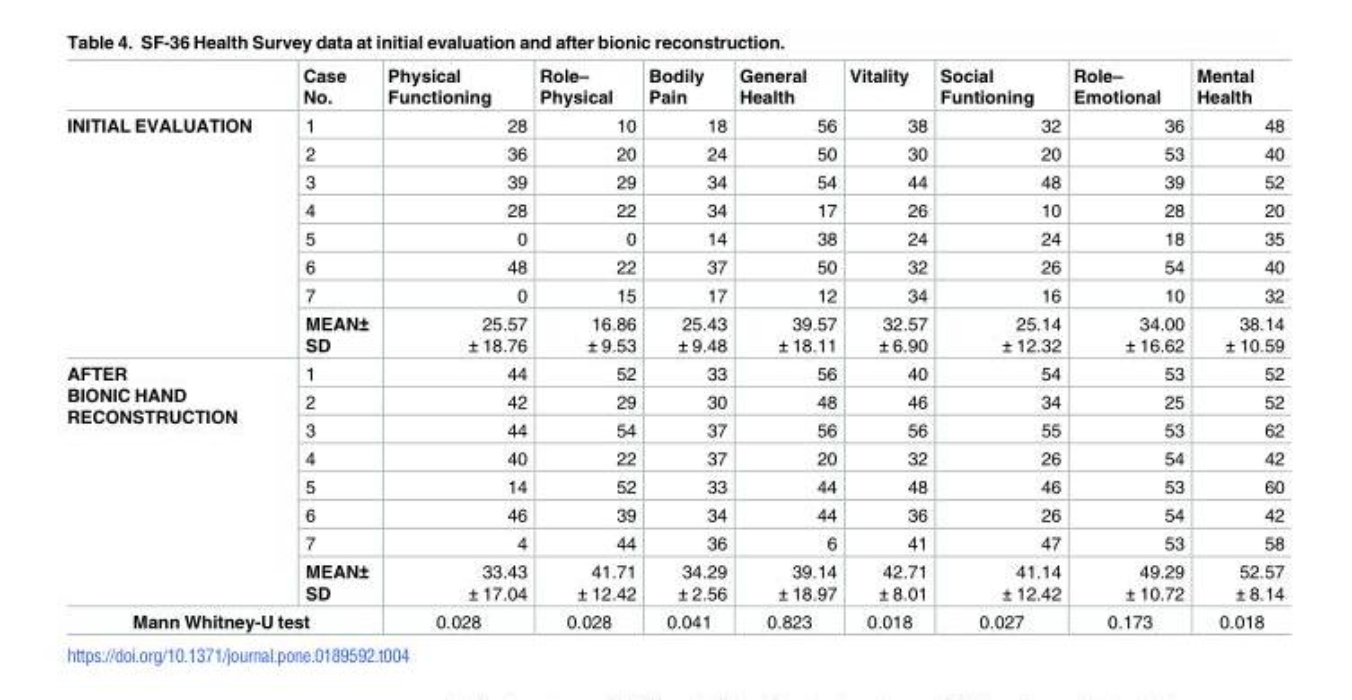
<table><thead><tr><td></td><td>Case No.</td><td>Physical Functioning</td><td>Role– Physical</td><td>Bodily Pain</td><td>General Health</td><td>Vitality</td><td>Social Funtioning</td><td>Role– Emotional</td><td>Mental Health</td></tr></thead><tbody><tr><td rowspan="8">INITIAL EVALUATION</td><td>1</td><td>28</td><td>10</td><td>18</td><td>56</td><td>38</td><td>32</td><td>36</td><td>48</td></tr><tr><td>2</td><td>36</td><td>20</td><td>24</td><td>50</td><td>30</td><td>20</td><td>53</td><td>40</td></tr><tr><td>3</td><td>39</td><td>29</td><td>34</td><td>54</td><td>44</td><td>48</td><td>39</td><td>52</td></tr><tr><td>4</td><td>28</td><td>22</td><td>34</td><td>17</td><td>26</td><td>10</td><td>28</td><td>20</td></tr><tr><td>5</td><td>0</td><td>0</td><td>14</td><td>38</td><td>24</td><td>24</td><td>18</td><td>35</td></tr><tr><td>6</td><td>48</td><td>22</td><td>37</td><td>50</td><td>32</td><td>26</td><td>54</td><td>40</td></tr><tr><td>7</td><td>0</td><td>15</td><td>17</td><td>12</td><td>34</td><td>16</td><td>10</td><td>32</td></tr><tr><td>MEAN± SD</td><td>25.57 ± 18.76</td><td>16.86 ± 9.53</td><td>25.43 ± 9.48</td><td>39.57 ± 18.11</td><td>32.57 ± 6.90</td><td>25.14 ± 12.32</td><td>34.00 ± 16.62</td><td>38.14 ± 10.59</td></tr><tr><td rowspan="8">AFTER BIONIC HAND RECONSTRUCTION</td><td>1</td><td>44</td><td>52</td><td>33</td><td>56</td><td>40</td><td>54</td><td>53</td><td>52</td></tr><tr><td>2</td><td>42</td><td>29</td><td>30</td><td>48</td><td>46</td><td>34</td><td>25</td><td>52</td></tr><tr><td>3</td><td>44</td><td>54</td><td>37</td><td>56</td><td>56</td><td>55</td><td>53</td><td>62</td></tr><tr><td>4</td><td>40</td><td>22</td><td>37</td><td>20</td><td>32</td><td>26</td><td>54</td><td>42</td></tr><tr><td>5</td><td>14</td><td>52</td><td>33</td><td>44</td><td>48</td><td>46</td><td>53</td><td>60</td></tr><tr><td>6</td><td>46</td><td>39</td><td>34</td><td>44</td><td>36</td><td>26</td><td>54</td><td>42</td></tr><tr><td>7</td><td>4</td><td>44</td><td>36</td><td>6</td><td>41</td><td>47</td><td>53</td><td>58</td></tr><tr><td>MEAN± SD</td><td>33.43 ± 17.04</td><td>41.71 ± 12.42</td><td>34.29 ± 2.56</td><td>39.14 ± 18.97</td><td>42.71 ± 8.01</td><td>41.14 ± 12.42</td><td>49.29 ± 10.72</td><td>52.57 ± 8.14</td></tr><tr><td colspan="2">Mann Whitney-U test</td><td>0.028</td><td>0.028</td><td>0.041</td><td>0.823</td><td>0.018</td><td>0.027</td><td>0.173</td><td>0.018</td></tr></tbody></table>